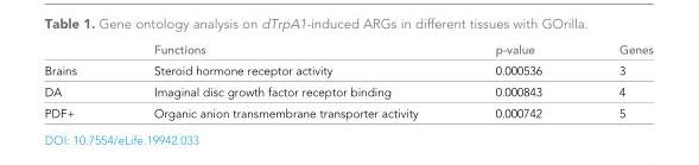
<table><thead><tr><td></td><td>Functions</td><td>p-value</td><td>Genes</td></tr></thead><tbody><tr><td>Brains</td><td>Steroid hormone receptor activity</td><td>0.000536</td><td>3</td></tr><tr><td>DA</td><td>Imaginal disc growth factor receptor binding</td><td>0.000843</td><td>4</td></tr><tr><td>PDF+</td><td>Organic anion transmembrane transporter activity</td><td>0.000742</td><td>5</td></tr></tbody></table>